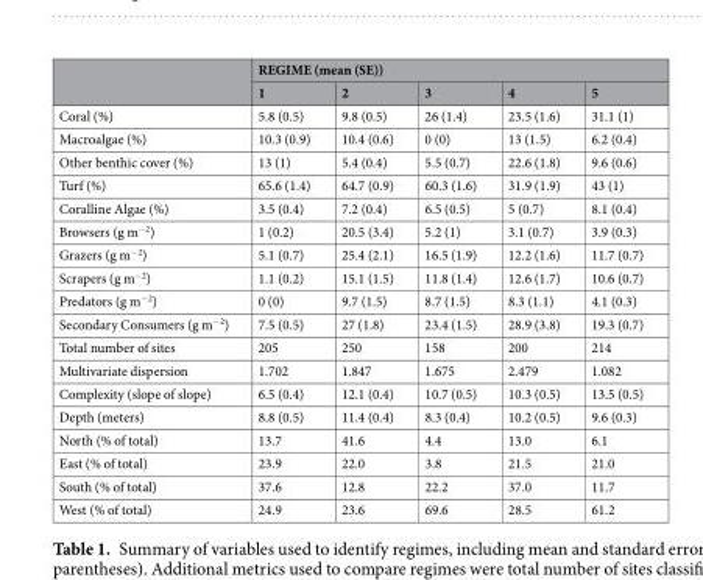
<table><thead><tr><td rowspan="2"></td><td colspan="5">REGIME (mean (SE))</td></tr><tr><td>1</td><td>2</td><td>3</td><td>4</td><td>5</td></tr></thead><tbody><tr><td>Coral (%)</td><td>5.8 (0.5)</td><td>9.8 (0.5)</td><td>26 (1.4)</td><td>23.5 (1.6)</td><td>31.1 (1)</td></tr><tr><td>Macroalgae (%)</td><td>10.3 (0.9)</td><td>10.4 (0.6)</td><td>0 (0)</td><td>13 (1.5)</td><td>6.2 (0.4)</td></tr><tr><td>Other benthic cover (%)</td><td>13 (1)</td><td>5.4 (0.4)</td><td>5.5 (0.7)</td><td>22.6 (1.8)</td><td>9.6 (0.6)</td></tr><tr><td>Turf (%)</td><td>65.6 (1.4)</td><td>64.7 (0.9)</td><td>60.3 (1.6)</td><td>31.9 (1.9)</td><td>43 (1)</td></tr><tr><td>Coralline Algae (%)</td><td>3.5 (0.4)</td><td>7.2 (0.4)</td><td>6.5 (0.5)</td><td>5 (0.7)</td><td>8.1 (0.4)</td></tr><tr><td>Browsers (g m<sup>−2</sup>)</td><td>1 (0.2)</td><td>20.5 (3.4)</td><td>5.2 (1)</td><td>3.1 (0.7)</td><td>3.9 (0.3)</td></tr><tr><td>Grazers (g m<sup>−2</sup>)</td><td>5.1 (0.7)</td><td>25.4 (2.1)</td><td>16.5 (1.9)</td><td>12.2 (1.6)</td><td>11.7 (0.7)</td></tr><tr><td>Scrapers (g m<sup>−2</sup>)</td><td>1.1 (0.2)</td><td>15.1 (1.5)</td><td>11.8 (1.4)</td><td>12.6 (1.7)</td><td>10.6 (0.7)</td></tr><tr><td>Predators (g m<sup>−2</sup>)</td><td>0 (0)</td><td>9.7 (1.5)</td><td>8.7 (1.5)</td><td>8.3 (1.1)</td><td>4.1 (0.3)</td></tr><tr><td>Secondary Consumers (g m<sup>−2</sup>)</td><td>7.5 (0.5)</td><td>27 (1.8)</td><td>23.4 (1.5)</td><td>28.9 (3.8)</td><td>19.3 (0.7)</td></tr><tr><td>Total number of sites</td><td>205</td><td>250</td><td>158</td><td>200</td><td>214</td></tr><tr><td>Multivariate dispersion</td><td>1.702</td><td>1.847</td><td>1.675</td><td>2.479</td><td>1.082</td></tr><tr><td>Complexity (slope of slope)</td><td>6.5 (0.4)</td><td>12.1 (0.4)</td><td>10.7 (0.5)</td><td>10.3 (0.5)</td><td>13.5 (0.5)</td></tr><tr><td>Depth (meters)</td><td>8.8 (0.5)</td><td>11.4 (0.4)</td><td>8.3 (0.4)</td><td>10.2 (0.5)</td><td>9.6 (0.3)</td></tr><tr><td>North (% of total)</td><td>13.7</td><td>41.6</td><td>4.4</td><td>13.0</td><td>6.1</td></tr><tr><td>East (% of total)</td><td>23.9</td><td>22.0</td><td>3.8</td><td>21.5</td><td>21.0</td></tr><tr><td>South (% of total)</td><td>37.6</td><td>12.8</td><td>22.2</td><td>37.0</td><td>11.7</td></tr><tr><td>West (% of total)</td><td>24.9</td><td>23.6</td><td>69.6</td><td>28.5</td><td>61.2</td></tr></tbody></table>